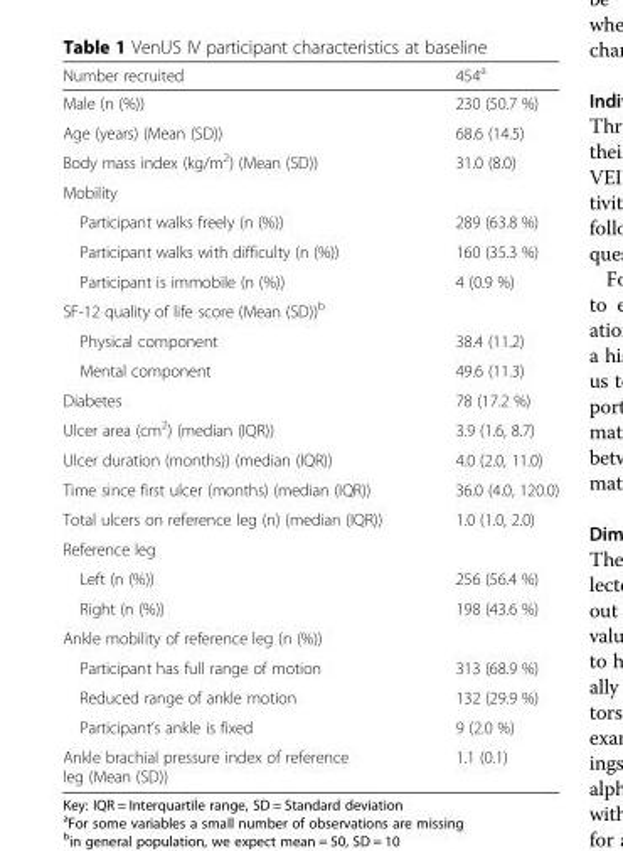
<table><thead><tr><td>Number recruited</td><td>454<sup>a</sup></td></tr></thead><tbody><tr><td>Male (n (%))</td><td>230 (50.7 %)</td></tr><tr><td>Age (years) (Mean (SD))</td><td>68.6 (14.5)</td></tr><tr><td>Body mass index (kg/m<sup>2</sup>) (Mean (SD))</td><td>31.0 (8.0)</td></tr><tr><td colspan="2">Mobility</td></tr><tr><td>Participant walks freely (n (%))</td><td>289 (63.8 %)</td></tr><tr><td>Participant walks with difficulty (n (%))</td><td>160 (35.3 %)</td></tr><tr><td>Participant is immobile (n (%))</td><td>4 (0.9 %)</td></tr><tr><td colspan="2">SF-12 quality of life score (Mean (SD))<sup>b</sup></td></tr><tr><td>Physical component</td><td>38.4 (11.2)</td></tr><tr><td>Mental component</td><td>49.6 (11.3)</td></tr><tr><td>Diabetes</td><td>78 (17.2 %)</td></tr><tr><td>Ulcer area (cm<sup>2</sup>) (median (IQR))</td><td>3.9 (1.6, 8.7)</td></tr><tr><td>Ulcer duration (months)) (median (IQR))</td><td>4.0 (2.0, 11.0)</td></tr><tr><td>Time since first ulcer (months) (median (IQR))</td><td>36.0 (4.0, 120.0)</td></tr><tr><td>Total ulcers on reference leg (n) (median (IQR))</td><td>1.0 (1.0, 2.0)</td></tr><tr><td colspan="2">Reference leg</td></tr><tr><td>Left (n (%))</td><td>256 (56.4 %)</td></tr><tr><td>Right (n (%))</td><td>198 (43.6 %)</td></tr><tr><td colspan="2">Ankle mobility of reference leg (n (%))</td></tr><tr><td>Participant has full range of motion</td><td>313 (68.9 %)</td></tr><tr><td>Reduced range of ankle motion</td><td>132 (29.9 %)</td></tr><tr><td>Participant’s ankle is fixed</td><td>9 (2.0 %)</td></tr><tr><td>Ankle brachial pressure index of reference leg (Mean (SD))</td><td>1.1 (0.1)</td></tr></tbody></table>